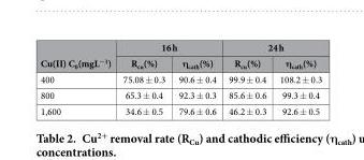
<table><thead><tr><td rowspan="2">Cu(II) C<sub>0</sub>(mgL<sup>−1</sup>)</td><td colspan="2">16 h</td><td colspan="2">24 h</td></tr><tr><td>R<sub>cu</sub>(%)</td><td>η<sub>cath</sub>(%)</td><td>R<sub>cu</sub>(%)</td><td>η<sub>cath</sub>(%)</td></tr></thead><tbody><tr><td>400</td><td>75.08 ± 0.3</td><td>90.6 ± 0.4</td><td>99.9 ± 0.4</td><td>108.2 ± 0.3</td></tr><tr><td>800</td><td>65.3 ± 0.4</td><td>92.3 ± 0.3</td><td>85.6 ± 0.6</td><td>99.3 ± 0.4</td></tr><tr><td>1,600</td><td>34.6 ± 0.5</td><td>79.6 ± 0.6</td><td>46.2 ± 0.3</td><td>92.6 ± 0.5</td></tr></tbody></table>